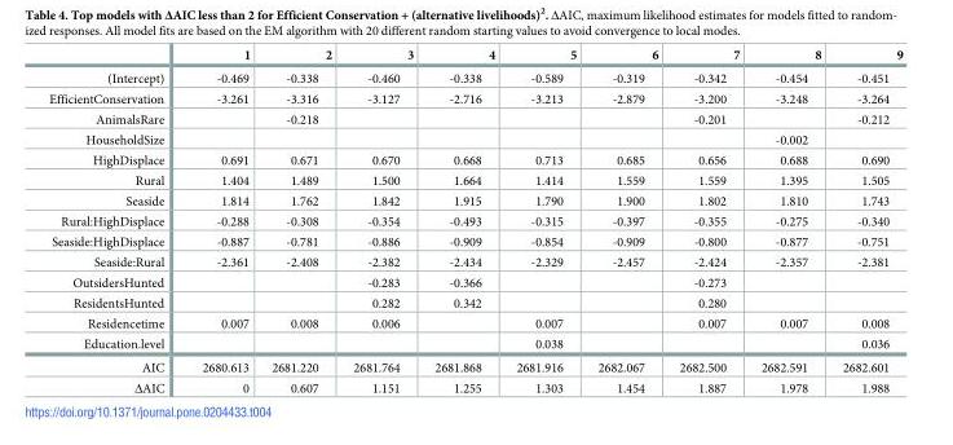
<table><thead><tr><td></td><td>1</td><td>2</td><td>3</td><td>4</td><td>5</td><td>6</td><td>7</td><td>8</td><td>9</td></tr></thead><tbody><tr><td>(Intercept)</td><td>-0.469</td><td>-0.338</td><td>-0.460</td><td>-0.338</td><td>-0.589</td><td>-0.319</td><td>-0.342</td><td>-0.454</td><td>-0.451</td></tr><tr><td>EfficientConservation</td><td>-3.261</td><td>-3.316</td><td>-3.127</td><td>-2.716</td><td>-3.213</td><td>-2.879</td><td>-3.200</td><td>-3.248</td><td>-3.264</td></tr><tr><td>AnimalsRare</td><td></td><td>-0.218</td><td></td><td></td><td></td><td></td><td>-0.201</td><td></td><td>-0.212</td></tr><tr><td>HouseholdSize</td><td></td><td></td><td></td><td></td><td></td><td></td><td></td><td>-0.002</td><td></td></tr><tr><td>HighDisplace</td><td>0.691</td><td>0.671</td><td>0.670</td><td>0.668</td><td>0.713</td><td>0.685</td><td>0.656</td><td>0.688</td><td>0.690</td></tr><tr><td>Rural</td><td>1.404</td><td>1.489</td><td>1.500</td><td>1.664</td><td>1.414</td><td>1.559</td><td>1.559</td><td>1.395</td><td>1.505</td></tr><tr><td>Seaside</td><td>1.814</td><td>1.762</td><td>1.842</td><td>1.915</td><td>1.790</td><td>1.900</td><td>1.802</td><td>1.810</td><td>1.743</td></tr><tr><td>Rural:HighDisplace</td><td>-0.288</td><td>-0.308</td><td>-0.354</td><td>-0.493</td><td>-0.315</td><td>-0.397</td><td>-0.355</td><td>-0.275</td><td>-0.340</td></tr><tr><td>Seaside:HighDisplace</td><td>-0.887</td><td>-0.781</td><td>-0.886</td><td>-0.909</td><td>-0.854</td><td>-0.909</td><td>-0.800</td><td>-0.877</td><td>-0.751</td></tr><tr><td>Seaside:Rural</td><td>-2.361</td><td>-2.408</td><td>-2.382</td><td>-2.434</td><td>-2.329</td><td>-2.457</td><td>-2.424</td><td>-2.357</td><td>-2.381</td></tr><tr><td>OutsidersHunted</td><td></td><td></td><td>-0.283</td><td>-0.366</td><td></td><td></td><td>-0.273</td><td></td><td></td></tr><tr><td>ResidentsHunted</td><td></td><td></td><td>0.282</td><td>0.342</td><td></td><td></td><td>0.280</td><td></td><td></td></tr><tr><td>Residencetime</td><td>0.007</td><td>0.008</td><td>0.006</td><td></td><td>0.007</td><td></td><td>0.007</td><td>0.007</td><td>0.008</td></tr><tr><td>Education.level</td><td></td><td></td><td></td><td></td><td>0.038</td><td></td><td></td><td></td><td>0.036</td></tr><tr><td>AIC</td><td>2680.613</td><td>2681.220</td><td>2681.764</td><td>2681.868</td><td>2681.916</td><td>2682.067</td><td>2682.500</td><td>2682.591</td><td>2682.601</td></tr><tr><td>ΔAIC</td><td>0</td><td>0.607</td><td>1.151</td><td>1.255</td><td>1.303</td><td>1.454</td><td>1.887</td><td>1.978</td><td>1.988</td></tr></tbody></table>